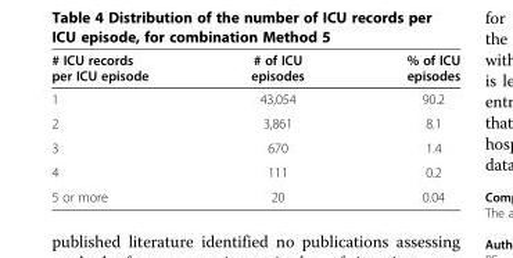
<table><thead><tr><td># ICU records per ICU episode</td><td># of ICU episodes</td><td>% of ICU episodes</td></tr></thead><tbody><tr><td>1</td><td>43,054</td><td>90.2</td></tr><tr><td>2</td><td>3,861</td><td>8.1</td></tr><tr><td>3</td><td>670</td><td>1.4</td></tr><tr><td>4</td><td>111</td><td>0.2</td></tr><tr><td>5 or more</td><td>20</td><td>0.04</td></tr></tbody></table>